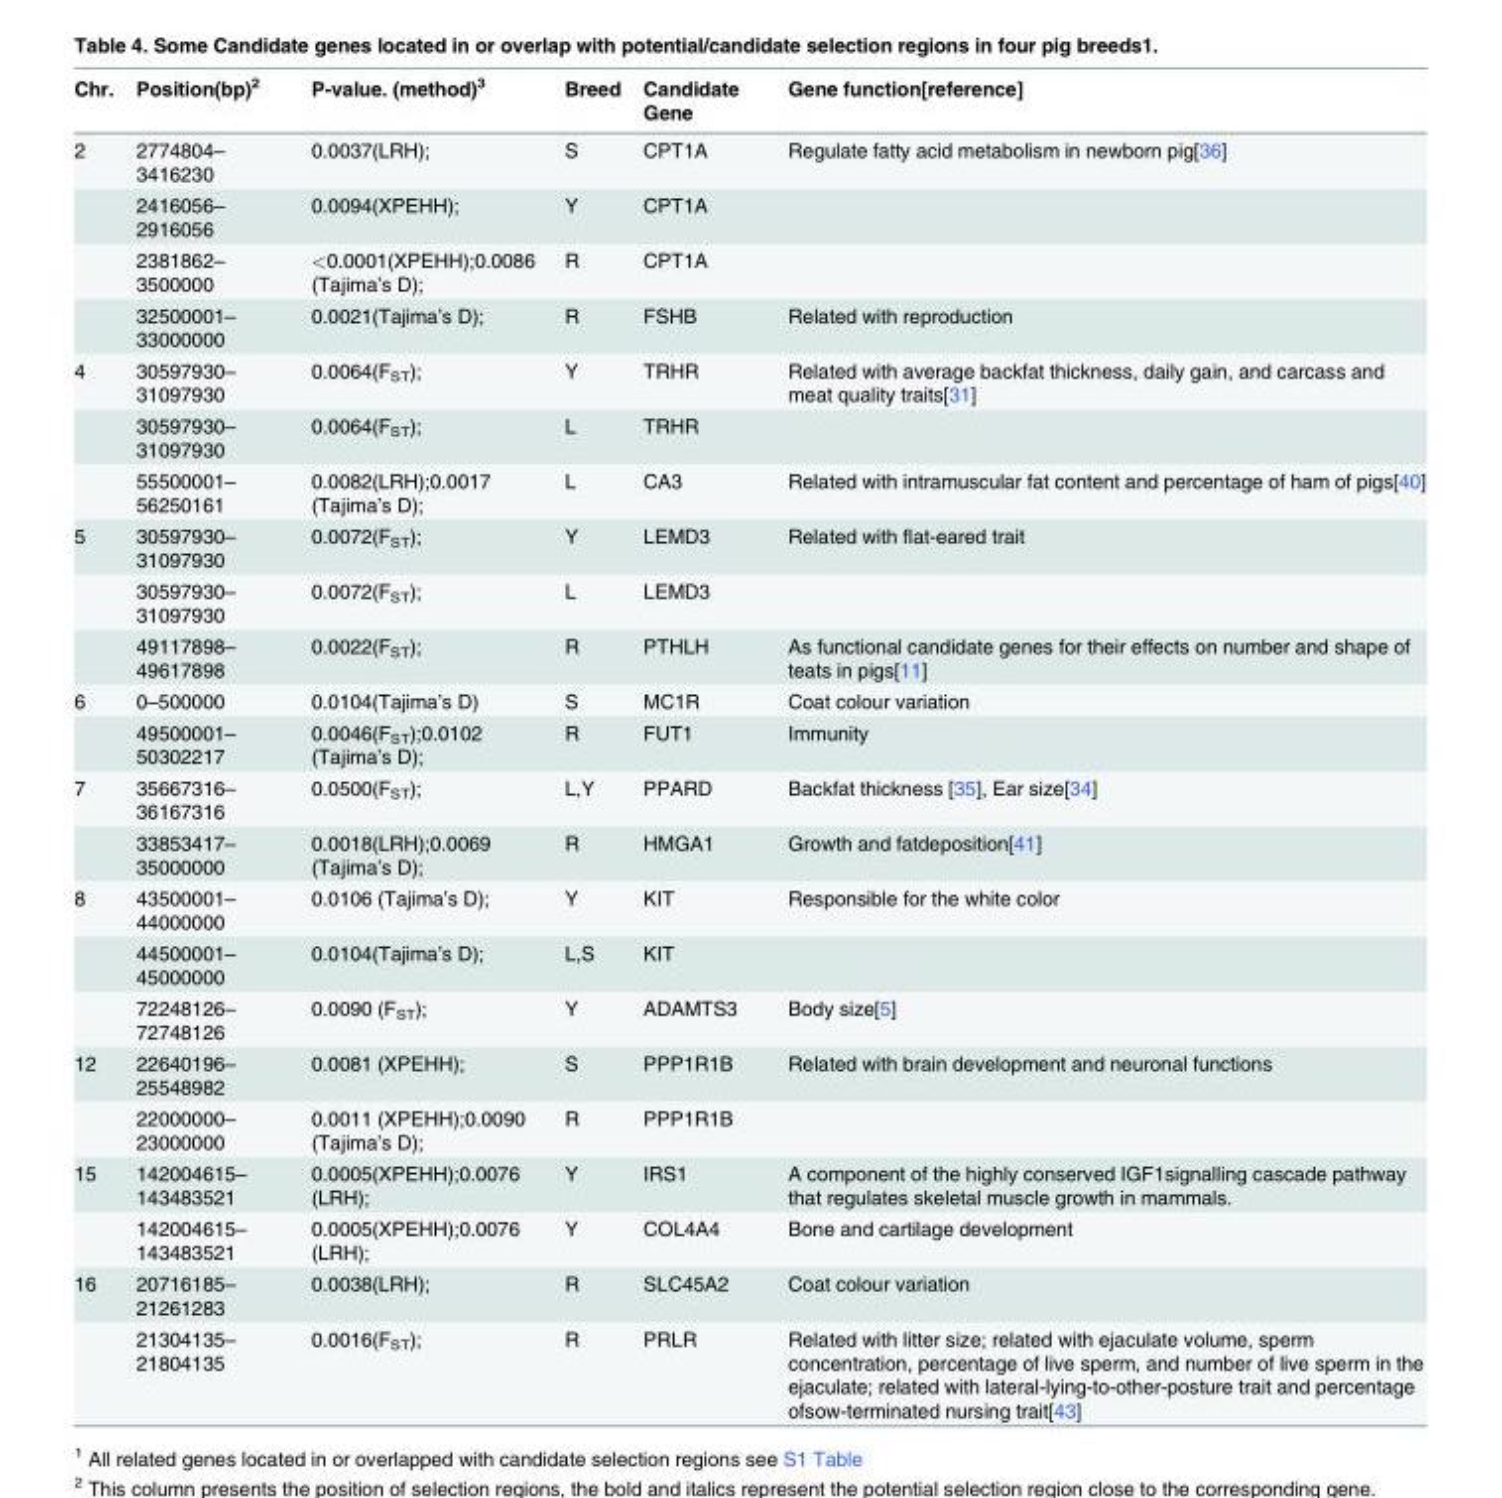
<table><thead><tr><td>Chr.</td><td>Position(bp)<sup>2</sup></td><td>P-value. (method)<sup>3</sup></td><td>Breed</td><td>Candidate Gene</td><td>Gene function[reference]</td></tr></thead><tbody><tr><td rowspan="4">2</td><td>2774804– 3416230</td><td>0.0037(LRH);</td><td>S</td><td>CPT1A</td><td>Regulate fatty acid metabolism in newborn pig[36]</td></tr><tr><td>2416056– 2916056</td><td>0.0094(XPEHH);</td><td>Y</td><td>CPT1A</td><td></td></tr><tr><td>2381862– 3500000</td><td>&lt;0.0001(XPEHH);0.0086 (Tajima’s D);</td><td>R</td><td>CPT1A</td><td></td></tr><tr><td>32500001– 33000000</td><td>0.0021(Tajima’s D);</td><td>R</td><td>FSHB</td><td>Related with reproduction</td></tr><tr><td rowspan="3">4</td><td>30597930– 31097930</td><td>0.0064(F<sub>ST</sub>);</td><td>Y</td><td>TRHR</td><td>Related with average backfat thickness, daily gain, and carcass and meat quality traits[31]</td></tr><tr><td>30597930– 31097930</td><td>0.0064(F<sub>ST</sub>);</td><td>L</td><td>TRHR</td><td></td></tr><tr><td>55500001– 56250161</td><td>0.0082(LRH);0.0017 (Tajima’s D);</td><td>L</td><td>CA3</td><td>Related with intramuscular fat content and percentage of ham of pigs[40]</td></tr><tr><td rowspan="3">5</td><td>30597930– 31097930</td><td>0.0072(F<sub>ST</sub>);</td><td>Y</td><td>LEMD3</td><td>Related with flat-eared trait</td></tr><tr><td>30597930– 31097930</td><td>0.0072(F<sub>ST</sub>);</td><td>L</td><td>LEMD3</td><td></td></tr><tr><td>49117898– 49617898</td><td>0.0022(F<sub>ST</sub>);</td><td>R</td><td>PTHLH</td><td>As functional candidate genes for their effects on number and shape of teats in pigs[11]</td></tr><tr><td rowspan="2">6</td><td>0–500000</td><td>0.0104(Tajima’s D)</td><td>S</td><td>MC1R</td><td>Coat colour variation</td></tr><tr><td>49500001– 50302217</td><td>0.0046(F<sub>ST</sub>);0.0102 (Tajima’s D);</td><td>R</td><td>FUT1</td><td>Immunity</td></tr><tr><td rowspan="2">7</td><td>35667316– 36167316</td><td>0.0500(F<sub>ST</sub>);</td><td>L,Y</td><td>PPARD</td><td>Backfat thickness [35], Ear size[34]</td></tr><tr><td>33853417– 35000000</td><td>0.0018(LRH);0.0069 (Tajima’s D);</td><td>R</td><td>HMGA1</td><td>Growth and fatdeposition[41]</td></tr><tr><td rowspan="3">8</td><td>43500001– 44000000</td><td>0.0106 (Tajima’s D);</td><td>Y</td><td>KIT</td><td>Responsible for the white color</td></tr><tr><td>44500001– 45000000</td><td>0.0104(Tajima’s D);</td><td>L,S</td><td>KIT</td><td></td></tr><tr><td>72248126– 72748126</td><td>0.0090 (F<sub>ST</sub>);</td><td>Y</td><td>ADAMTS3</td><td>Body size[5]</td></tr><tr><td rowspan="2">12</td><td>22640196– 25548982</td><td>0.0081 (XPEHH);</td><td>S</td><td>PPP1R1B</td><td>Related with brain development and neuronal functions</td></tr><tr><td>22000000– 23000000</td><td>0.0011 (XPEHH);0.0090 (Tajima’s D);</td><td>R</td><td>PPP1R1B</td><td></td></tr><tr><td rowspan="2">15</td><td>142004615– 143483521</td><td>0.0005(XPEHH);0.0076 (LRH);</td><td>Y</td><td>IRS1</td><td>A component of the highly conserved IGF1signalling cascade pathway that regulates skeletal muscle growth in mammals.</td></tr><tr><td>142004615– 143483521</td><td>0.0005(XPEHH);0.0076 (LRH);</td><td>Y</td><td>COL4A4</td><td>Bone and cartilage development</td></tr><tr><td rowspan="2">16</td><td>20716185– 21261283</td><td>0.0038(LRH);</td><td>R</td><td>SLC45A2</td><td>Coat colour variation</td></tr><tr><td>21304135– 21804135</td><td>0.0016(F<sub>ST</sub>);</td><td>R</td><td>PRLR</td><td>Related with litter size; related with ejaculate volume, sperm concentration, percentage of live sperm, and number of live sperm in the ejaculate; related with lateral-lying-to-other-posture trait and percentage ofsow-terminated nursing trait[43]</td></tr></tbody></table>